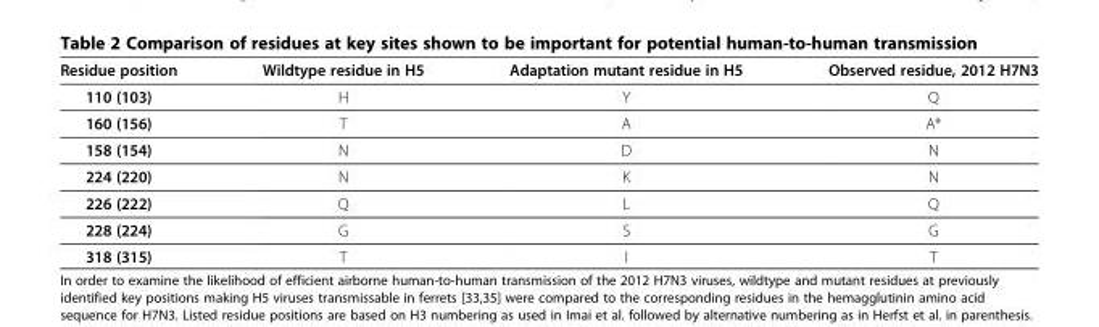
<table><thead><tr><td>Residue position</td><td>Wildtype residue in H5</td><td>Adaptation mutant residue in H5</td><td>Observed residue, 2012 H7N3</td></tr></thead><tbody><tr><td>110 (103)</td><td>H</td><td>Y</td><td>Q</td></tr><tr><td>160 (156)</td><td>T</td><td>A</td><td>A*</td></tr><tr><td>158 (154)</td><td>N</td><td>D</td><td>N</td></tr><tr><td>224 (220)</td><td>N</td><td>K</td><td>N</td></tr><tr><td>226 (222)</td><td>Q</td><td>L</td><td>Q</td></tr><tr><td>228 (224)</td><td>G</td><td>S</td><td>G</td></tr><tr><td>318 (315)</td><td>T</td><td>I</td><td>T</td></tr></tbody></table>